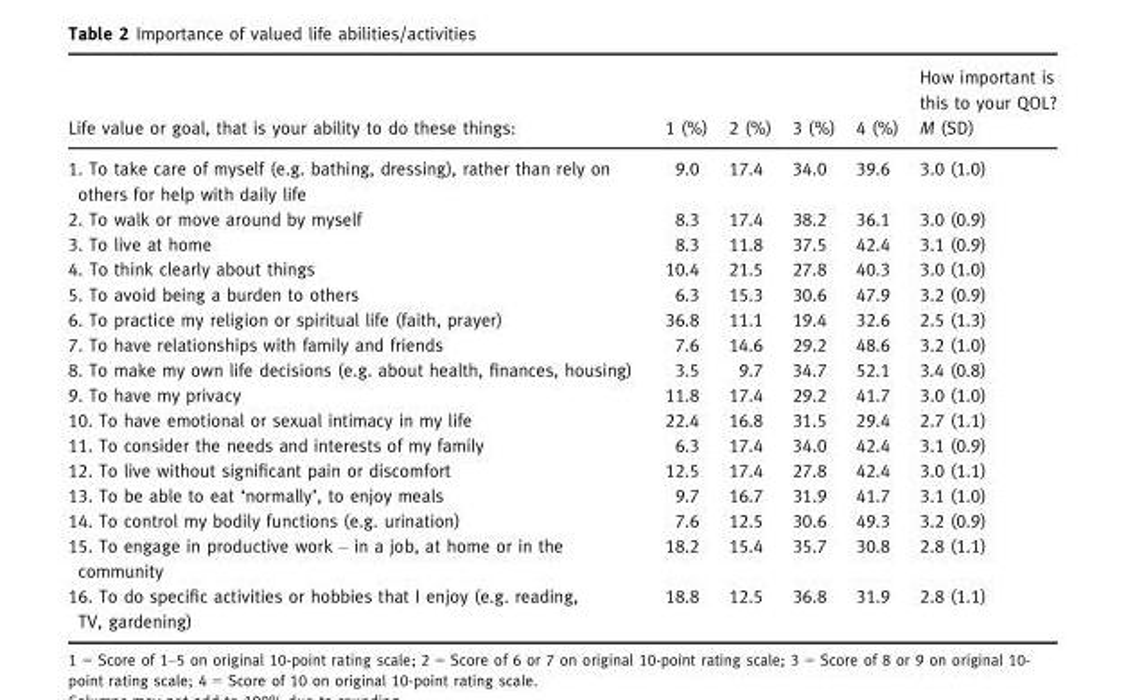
<table><thead><tr><td>Life value or goal, that is your ability to do these things:</td><td>1 (%)</td><td>2 (%)</td><td>3 (%)</td><td>4 (%)</td><td>How important is this to your QOL? M (SD)</td></tr></thead><tbody><tr><td>1. To take care of myself (e.g. bathing, dressing), rather than rely on others for help with daily life</td><td>9.0</td><td>17.4</td><td>34.0</td><td>39.6</td><td>3.0 (1.0)</td></tr><tr><td>2. To walk or move around by myself</td><td>8.3</td><td>17.4</td><td>38.2</td><td>36.1</td><td>3.0 (0.9)</td></tr><tr><td>3. To live at home</td><td>8.3</td><td>11.8</td><td>37.5</td><td>42.4</td><td>3.1 (0.9)</td></tr><tr><td>4. To think clearly about things</td><td>10.4</td><td>21.5</td><td>27.8</td><td>40.3</td><td>3.0 (1.0)</td></tr><tr><td>5. To avoid being a burden to others</td><td>6.3</td><td>15.3</td><td>30.6</td><td>47.9</td><td>3.2 (0.9)</td></tr><tr><td>6. To practice my religion or spiritual life (faith, prayer)</td><td>36.8</td><td>11.1</td><td>19.4</td><td>32.6</td><td>2.5 (1.3)</td></tr><tr><td>7. To have relationships with family and friends</td><td>7.6</td><td>14.6</td><td>29.2</td><td>48.6</td><td>3.2 (1.0)</td></tr><tr><td>8. To make my own life decisions (e.g. about health, finances, housing)</td><td>3.5</td><td>9.7</td><td>34.7</td><td>52.1</td><td>3.4 (0.8)</td></tr><tr><td>9. To have my privacy</td><td>11.8</td><td>17.4</td><td>29.2</td><td>41.7</td><td>3.0 (1.0)</td></tr><tr><td>10. To have emotional or sexual intimacy in my life</td><td>22.4</td><td>16.8</td><td>31.5</td><td>29.4</td><td>2.7 (1.1)</td></tr><tr><td>11. To consider the needs and interests of my family</td><td>6.3</td><td>17.4</td><td>34.0</td><td>42.4</td><td>3.1 (0.9)</td></tr><tr><td>12. To live without significant pain or discomfort</td><td>12.5</td><td>17.4</td><td>27.8</td><td>42.4</td><td>3.0 (1.1)</td></tr><tr><td>13. To be able to eat ‘normally’, to enjoy meals</td><td>9.7</td><td>16.7</td><td>31.9</td><td>41.7</td><td>3.1 (1.0)</td></tr><tr><td>14. To control my bodily functions (e.g. urination)</td><td>7.6</td><td>12.5</td><td>30.6</td><td>49.3</td><td>3.2 (0.9)</td></tr><tr><td>15. To engage in productive work – in a job, at home or in the community</td><td>18.2</td><td>15.4</td><td>35.7</td><td>30.8</td><td>2.8 (1.1)</td></tr><tr><td>16. To do specific activities or hobbies that I enjoy (e.g. reading, TV, gardening)</td><td>18.8</td><td>12.5</td><td>36.8</td><td>31.9</td><td>2.8 (1.1)</td></tr></tbody></table>